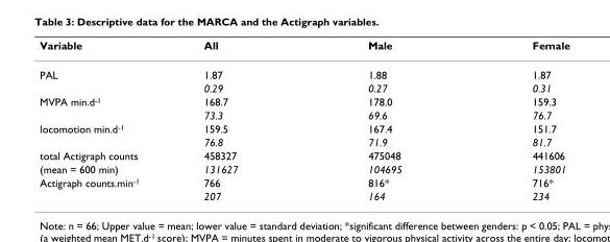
<table><thead><tr><td>Variable</td><td>All</td><td>Male</td><td>Female</td></tr></thead><tbody><tr><td rowspan="2">PAL</td><td>1.87</td><td>1.88</td><td>1.87</td></tr><tr><td>0.29</td><td>0.27</td><td>0.31</td></tr><tr><td rowspan="2">MVPA min.d<sup>-1</sup></td><td>168.7</td><td>178.0</td><td>159.3</td></tr><tr><td>73.3</td><td>69.6</td><td>76.7</td></tr><tr><td rowspan="2">locomotion min.d<sup>-1</sup></td><td>159.5</td><td>167.4</td><td>151.7</td></tr><tr><td>76.8</td><td>71.9</td><td>81.7</td></tr><tr><td>total Actigraph counts</td><td>458327</td><td>475048</td><td>441606</td></tr><tr><td>(mean = 600 min)</td><td>131627</td><td>104695</td><td>153801</td></tr><tr><td rowspan="2">Actigraph counts.min<sup>-1</sup></td><td>766</td><td>816*</td><td>716*</td></tr><tr><td>207</td><td>164</td><td>234</td></tr></tbody></table>